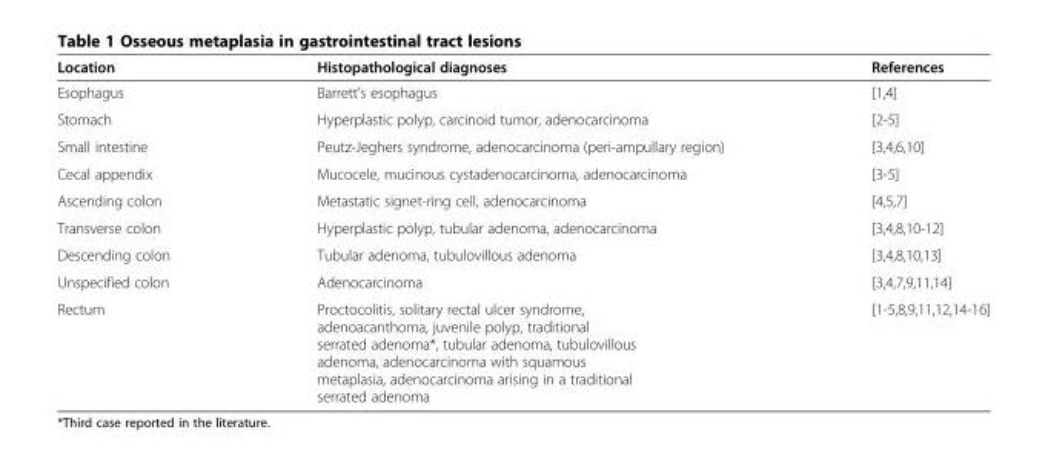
<table><thead><tr><td>Location</td><td>Histopathological diagnoses</td><td>References</td></tr></thead><tbody><tr><td>Esophagus</td><td>Barrett’s esophagus</td><td>[1,4]</td></tr><tr><td>Stomach</td><td>Hyperplastic polyp, carcinoid tumor, adenocarcinoma</td><td>[2-5]</td></tr><tr><td>Small intestine</td><td>Peutz-Jeghers syndrome, adenocarcinoma (peri-ampullary region)</td><td>[3,4,6,10]</td></tr><tr><td>Cecal appendix</td><td>Mucocele, mucinous cystadenocarcinoma, adenocarcinoma</td><td>[3-5]</td></tr><tr><td>Ascending colon</td><td>Metastatic signet-ring cell, adenocarcinoma</td><td>[4,5,7]</td></tr><tr><td>Transverse colon</td><td>Hyperplastic polyp, tubular adenoma, adenocarcinoma</td><td>[3,4,8,10-12]</td></tr><tr><td>Descending colon</td><td>Tubular adenoma, tubulovillous adenoma</td><td>[3,4,8,10,13]</td></tr><tr><td>Unspecified colon</td><td>Adenocarcinoma</td><td>[3,4,7,9,11,14]</td></tr><tr><td>Rectum</td><td>Proctocolitis, solitary rectal ulcer syndrome, adenoacanthoma, juvenile polyp, traditional serrated adenoma*, tubular adenoma, tubulovillous adenoma, adenocarcinoma with squamous metaplasia, adenocarcinoma arising in a traditional serrated adenoma</td><td>[1-5,8,9,11,12,14-16]</td></tr></tbody></table>